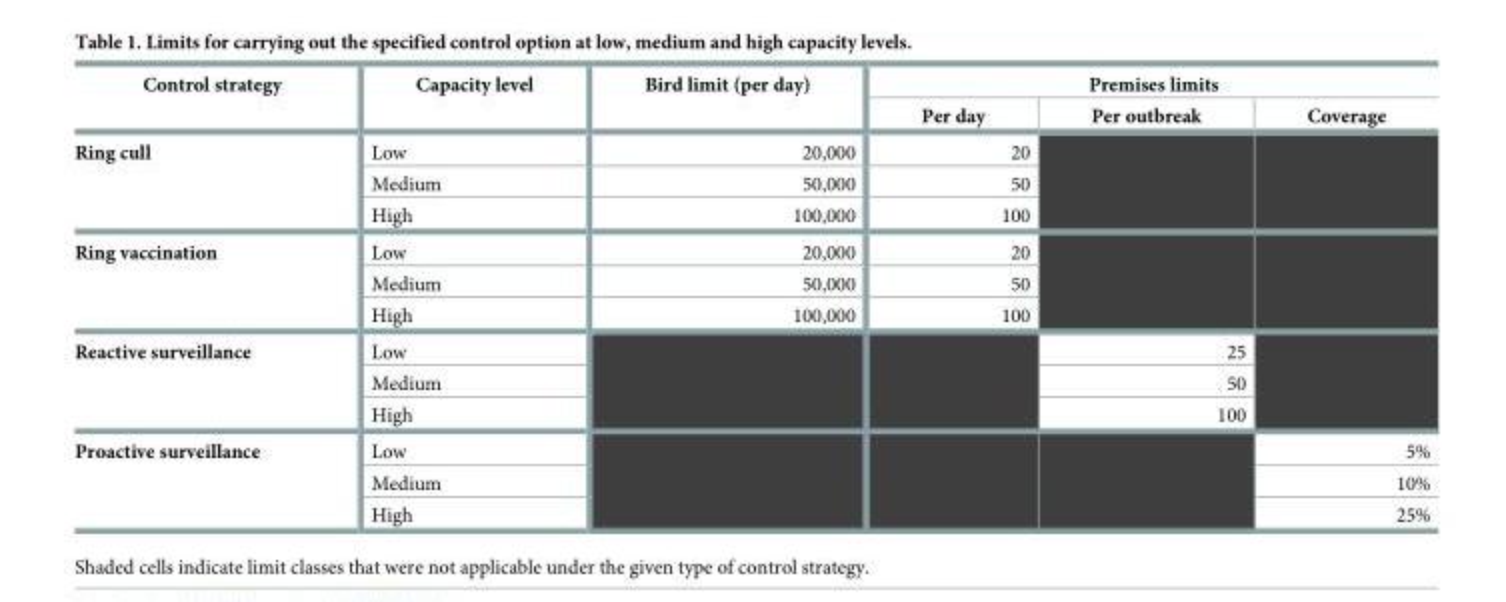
<table><thead><tr><td rowspan="2">Control strategy</td><td rowspan="2">Capacity level</td><td rowspan="2">Bird limit (per day)</td><td colspan="3">Premises limits</td></tr><tr><td>Per day</td><td>Per outbreak</td><td>Coverage</td></tr></thead><tbody><tr><td rowspan="3">Ring cull</td><td>Low</td><td>20,000</td><td>20</td><td rowspan="3"></td><td rowspan="3"></td></tr><tr><td>Medium</td><td>50,000</td><td>50</td></tr><tr><td>High</td><td>100,000</td><td>100</td></tr><tr><td rowspan="3">Ring vaccination</td><td>Low</td><td>20,000</td><td>20</td><td rowspan="3"></td><td rowspan="3"></td></tr><tr><td>Medium</td><td>50,000</td><td>50</td></tr><tr><td>High</td><td>100,000</td><td>100</td></tr><tr><td rowspan="3">Reactive surveillance</td><td>Low</td><td rowspan="3"></td><td rowspan="3"></td><td>25</td><td rowspan="3"></td></tr><tr><td>Medium</td><td>50</td></tr><tr><td>High</td><td>100</td></tr><tr><td rowspan="3">Proactive surveillance</td><td>Low</td><td rowspan="3"></td><td rowspan="3"></td><td rowspan="3"></td><td>5%</td></tr><tr><td>Medium</td><td>10%</td></tr><tr><td>High</td><td>25%</td></tr></tbody></table>